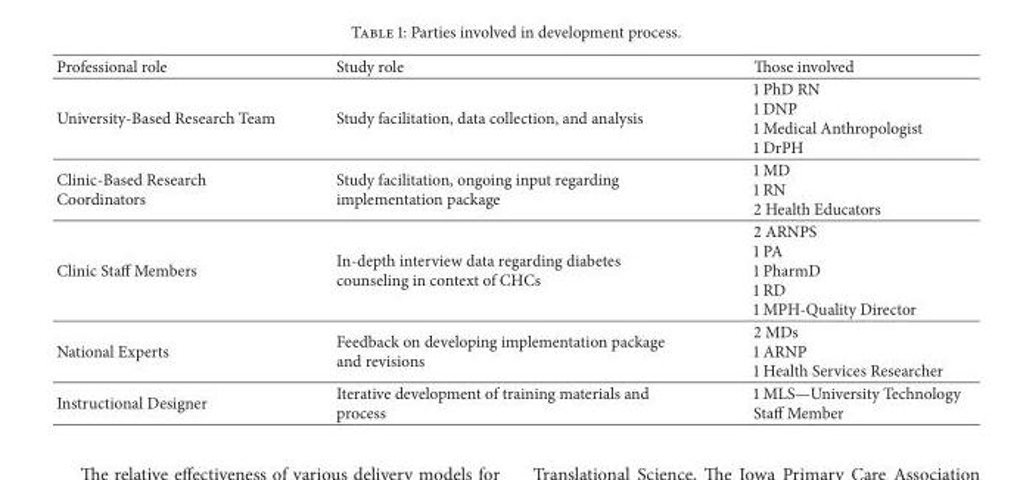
<table><thead><tr><td>Professional role</td><td>Study role</td><td>Those involved</td></tr></thead><tbody><tr><td>University-Based Research Team</td><td>Study facilitation, data collection, and analysis</td><td>1 PhD RN 1 DNP 1 Medical Anthropologist 1 DrPH</td></tr><tr><td>Clinic-Based Research Coordinators</td><td>Study facilitation, ongoing input regarding implementation package</td><td>1 MD 1 RN 2 Health Educators</td></tr><tr><td>Clinic Staff Members</td><td>In-depth interview data regarding diabetes counseling in context of CHCs</td><td>2 ARNPS 1 PA 1 PharmD 1 RD 1 MPH-Quality Director</td></tr><tr><td>National Experts</td><td>Feedback on developing implementation package and revisions</td><td>2 MDs 1 ARNP 1 Health Services Researcher</td></tr><tr><td>Instructional Designer</td><td>Iterative development of training materials and process</td><td>1 MLS—University Technology Staff Member</td></tr></tbody></table>